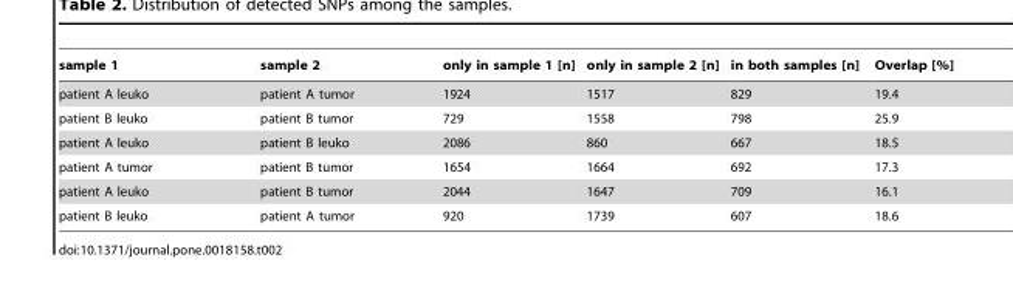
<table><thead><tr><td>sample 1</td><td>sample 2</td><td>only in sample 1 [n]</td><td>only in sample 2 [n]</td><td>in both samples [n]</td><td>Overlap [%]</td></tr></thead><tbody><tr><td>patient A leuko</td><td>patient A tumor</td><td>1924</td><td>1517</td><td>829</td><td>19.4</td></tr><tr><td>patient B leuko</td><td>patient B tumor</td><td>729</td><td>1558</td><td>798</td><td>25.9</td></tr><tr><td>patient A leuko</td><td>patient B leuko</td><td>2086</td><td>860</td><td>667</td><td>18.5</td></tr><tr><td>patient A tumor</td><td>patient B tumor</td><td>1654</td><td>1664</td><td>692</td><td>17.3</td></tr><tr><td>patient A leuko</td><td>patient B tumor</td><td>2044</td><td>1647</td><td>709</td><td>16.1</td></tr><tr><td>patient B leuko</td><td>patient A tumor</td><td>920</td><td>1739</td><td>607</td><td>18.6</td></tr></tbody></table>